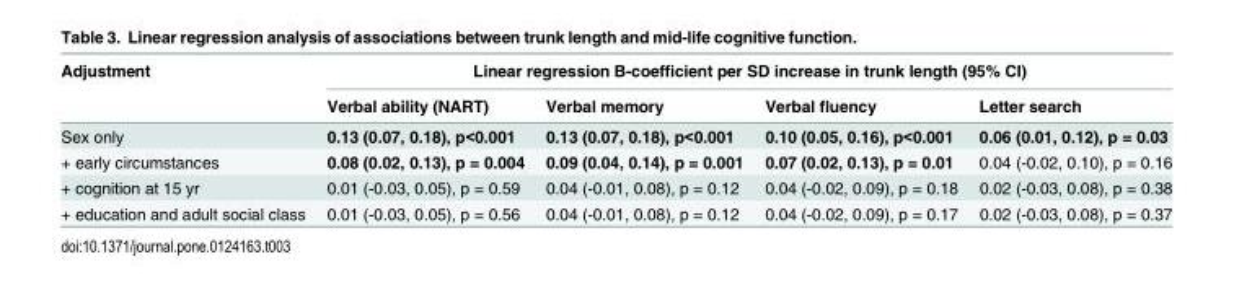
<table><thead><tr><td rowspan="2">Adjustment</td><td colspan="4">Linear regression B-coefficient per SD increase in trunk length (95% CI)</td></tr><tr><td>Verbal ability (NART)</td><td>Verbal memory</td><td>Verbal fluency</td><td>Letter search</td></tr></thead><tbody><tr><td>Sex only</td><td>0.13 (0.07, 0.18), p&lt;0.001</td><td>0.13 (0.07, 0.18), p&lt;0.001</td><td>0.10 (0.05, 0.16), p&lt;0.001</td><td>0.06 (0.01, 0.12), p = 0.03</td></tr><tr><td>+ early circumstances</td><td>0.08 (0.02, 0.13), p = 0.004</td><td>0.09 (0.04, 0.14), p = 0.001</td><td>0.07 (0.02, 0.13), p = 0.01</td><td>0.04 (-0.02, 0.10), p = 0.16</td></tr><tr><td>+ cognition at 15 yr</td><td>0.01 (-0.03, 0.05), p = 0.59</td><td>0.04 (-0.01, 0.08), p = 0.12</td><td>0.04 (-0.02, 0.09), p = 0.18</td><td>0.02 (-0.03, 0.08), p = 0.38</td></tr><tr><td>+ education and adult social class</td><td>0.01 (-0.03, 0.05), p = 0.56</td><td>0.04 (-0.01, 0.08), p = 0.12</td><td>0.04 (-0.02, 0.09), p = 0.17</td><td>0.02 (-0.03, 0.08), p = 0.37</td></tr></tbody></table>